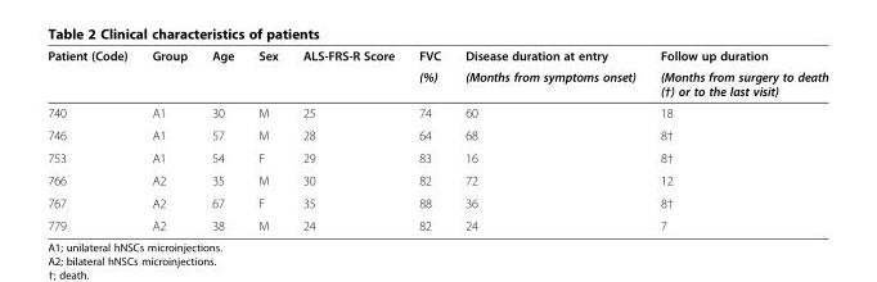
<table><thead><tr><td rowspan="2">Patient (Code)</td><td rowspan="2">Group</td><td rowspan="2">Age</td><td rowspan="2">Sex</td><td rowspan="2">ALS-FRS-R Score</td><td rowspan="2">FVC (%)</td><td rowspan="2">Disease duration at entry (Months from symptoms onset)</td><td rowspan="2">Follow up duration (Months from surgery to death (†) or to the last visit)</td></tr><tr></tr></thead><tbody><tr><td>740</td><td>A1</td><td>30</td><td>M</td><td>25</td><td>74</td><td>60</td><td>18</td></tr><tr><td>746</td><td>A1</td><td>57</td><td>M</td><td>28</td><td>64</td><td>68</td><td>8†</td></tr><tr><td>753</td><td>A1</td><td>54</td><td>F</td><td>29</td><td>83</td><td>16</td><td>8†</td></tr><tr><td>766</td><td>A2</td><td>35</td><td>M</td><td>30</td><td>82</td><td>72</td><td>12</td></tr><tr><td>767</td><td>A2</td><td>67</td><td>F</td><td>35</td><td>88</td><td>36</td><td>8†</td></tr><tr><td>779</td><td>A2</td><td>38</td><td>M</td><td>24</td><td>82</td><td>24</td><td>7</td></tr></tbody></table>